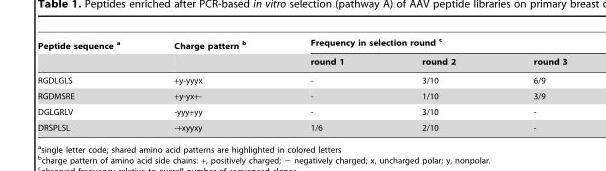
<table><thead><tr><td rowspan="2">Peptide sequence a</td><td rowspan="2">Charge pattern b</td><td colspan="3">Frequency in selection round c</td></tr><tr><td>round 1</td><td>round 2</td><td>round 3</td></tr></thead><tbody><tr><td>RGDLGLS</td><td>+y-yyyx</td><td>-</td><td>3/10</td><td>6/9</td></tr><tr><td>RGDMSRE</td><td>+y-yx+-</td><td>-</td><td>1/10</td><td>3/9</td></tr><tr><td>DGLGRLV</td><td>-yyy+yy</td><td>-</td><td>3/10</td><td>-</td></tr><tr><td>DRSPLSL</td><td>-+xyyxy</td><td>1/6</td><td>2/10</td><td>-</td></tr></tbody></table>